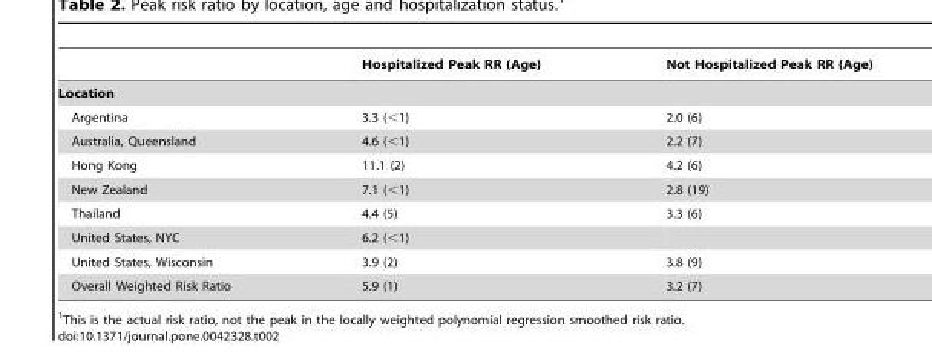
<table><thead><tr><td></td><td>Hospitalized Peak RR (Age)</td><td>Not Hospitalized Peak RR (Age)</td></tr></thead><tbody><tr><td colspan="3">Location</td></tr><tr><td>Argentina</td><td>3.3 (&lt;1)</td><td>2.0 (6)</td></tr><tr><td>Australia, Queensland</td><td>4.6 (&lt;1)</td><td>2.2 (7)</td></tr><tr><td>Hong Kong</td><td>11.1 (2)</td><td>4.2 (6)</td></tr><tr><td>New Zealand</td><td>7.1 (&lt;1)</td><td>2.8 (19)</td></tr><tr><td>Thailand</td><td>4.4 (5)</td><td>3.3 (6)</td></tr><tr><td>United States, NYC</td><td>6.2 (&lt;1)</td><td></td></tr><tr><td>United States, Wisconsin</td><td>3.9 (2)</td><td>3.8 (9)</td></tr><tr><td>Overall Weighted Risk Ratio</td><td>5.9 (1)</td><td>3.2 (7)</td></tr></tbody></table>